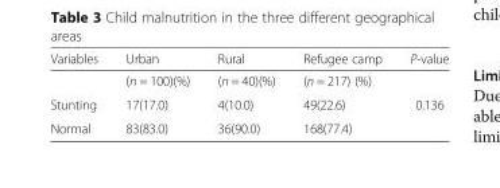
<table><thead><tr><td>Variables</td><td>Urban</td><td>Rural</td><td>Refugee camp</td><td>P-value</td></tr></thead><tbody><tr><td></td><td>(n = 100)(%)</td><td>(n = 40)(%)</td><td>(n = 217) (%)</td><td></td></tr><tr><td>Stunting</td><td>17(17.0)</td><td>4(10.0)</td><td>49(22.6)</td><td>0.136</td></tr><tr><td>Normal</td><td>83(83.0)</td><td>36(90.0)</td><td>168(77.4)</td><td></td></tr></tbody></table>